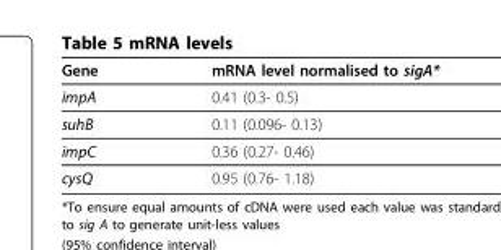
<table><thead><tr><td>Gene</td><td>mRNA level normalised to sigA*</td></tr></thead><tbody><tr><td>impA</td><td>0.41 (0.3- 0.5)</td></tr><tr><td>suhB</td><td>0.11 (0.096- 0.13)</td></tr><tr><td>impC</td><td>0.36 (0.27- 0.46)</td></tr><tr><td>cysQ</td><td>0.95 (0.76- 1.18)</td></tr></tbody></table>